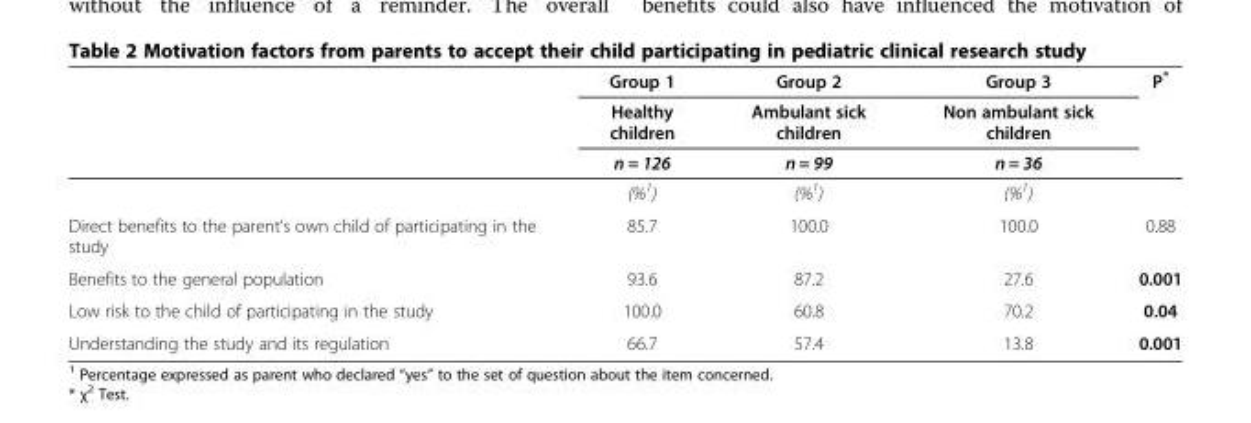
<table><thead><tr><td rowspan="3"></td><td rowspan="3">Group 1 Healthy children n = 126</td><td rowspan="3">Group 2 Ambulant sick children n = 99</td><td rowspan="3">Group 3 Non ambulant sick children n = 36</td><td rowspan="3">P*</td></tr><tr></tr><tr></tr></thead><tbody><tr><td></td><td>(%<sup>1</sup>)</td><td>(%<sup>1</sup>)</td><td>(%<sup>1</sup>)</td><td></td></tr><tr><td>Direct benefits to the parent’s own child of participating in the study</td><td>85.7</td><td>100.0</td><td>100.0</td><td>0.88</td></tr><tr><td>Benefits to the general population</td><td>93.6</td><td>87.2</td><td>27.6</td><td>0.001</td></tr><tr><td>Low risk to the child of participating in the study</td><td>100.0</td><td>60.8</td><td>70.2</td><td>0.04</td></tr><tr><td>Understanding the study and its regulation</td><td>66.7</td><td>57.4</td><td>13.8</td><td>0.001</td></tr></tbody></table>